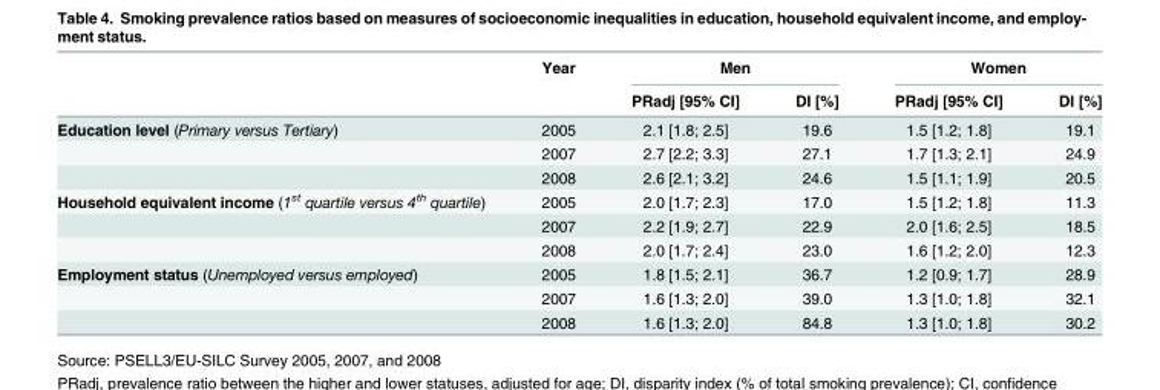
<table><thead><tr><td rowspan="2"></td><td rowspan="2">Year</td><td colspan="2">Men</td><td colspan="2">Women</td></tr><tr><td>PRadj [95% CI]</td><td>DI [%]</td><td>PRadj [95% CI]</td><td>DI [%]</td></tr></thead><tbody><tr><td rowspan="3">Education level (Primary versus Tertiary)</td><td>2005</td><td>2.1 [1.8; 2.5]</td><td>19.6</td><td>1.5 [1.2; 1.8]</td><td>19.1</td></tr><tr><td>2007</td><td>2.7 [2.2; 3.3]</td><td>27.1</td><td>1.7 [1.3; 2.1]</td><td>24.9</td></tr><tr><td>2008</td><td>2.6 [2.1; 3.2]</td><td>24.6</td><td>1.5 [1.1; 1.9]</td><td>20.5</td></tr><tr><td rowspan="3">Household equivalent income (1<sup>st</sup> quartile versus 4<sup>th</sup> quartile)</td><td>2005</td><td>2.0 [1.7; 2.3]</td><td>17.0</td><td>1.5 [1.2; 1.8]</td><td>11.3</td></tr><tr><td>2007</td><td>2.2 [1.9; 2.7]</td><td>22.9</td><td>2.0 [1.6; 2.5]</td><td>18.5</td></tr><tr><td>2008</td><td>2.0 [1.7; 2.4]</td><td>23.0</td><td>1.6 [1.2; 2.0]</td><td>12.3</td></tr><tr><td rowspan="3">Employment status (Unemployed versus employed)</td><td>2005</td><td>1.8 [1.5; 2.1]</td><td>36.7</td><td>1.2 [0.9; 1.7]</td><td>28.9</td></tr><tr><td>2007</td><td>1.6 [1.3; 2.0]</td><td>39.0</td><td>1.3 [1.0; 1.8]</td><td>32.1</td></tr><tr><td>2008</td><td>1.6 [1.3; 2.0]</td><td>84.8</td><td>1.3 [1.0; 1.8]</td><td>30.2</td></tr></tbody></table>